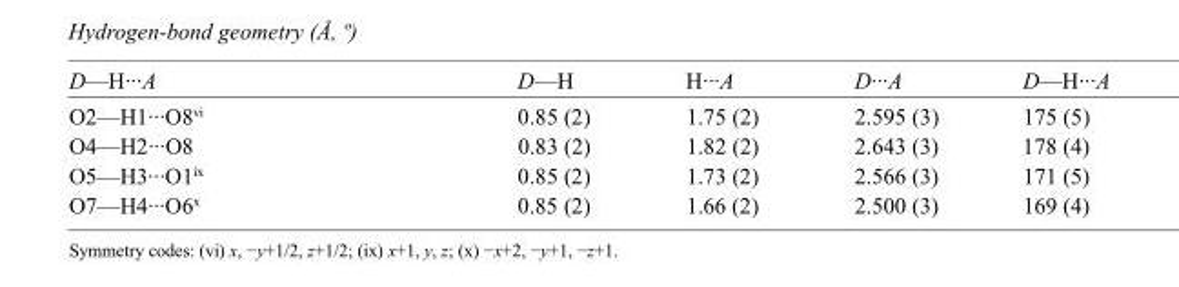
<table><tbody><tr><td>D—H···A</td><td>D—H</td><td>H···A</td><td>D···A</td><td>D—H···A</td></tr><tr><td>O2—H1···O8<sup>vi</sup></td><td>0.85 (2)</td><td>1.75 (2)</td><td>2.595 (3)</td><td>175 (5)</td></tr><tr><td>O4—H2···O8</td><td>0.83 (2)</td><td>1.82 (2)</td><td>2.643 (3)</td><td>178 (4)</td></tr><tr><td>O5—H3···O1<sup>ix</sup></td><td>0.85 (2)</td><td>1.73 (2)</td><td>2.566 (3)</td><td>171 (5)</td></tr><tr><td>O7—H4···O6<sup>x</sup></td><td>0.85 (2)</td><td>1.66 (2)</td><td>2.500 (3)</td><td>169 (4)</td></tr></tbody></table>